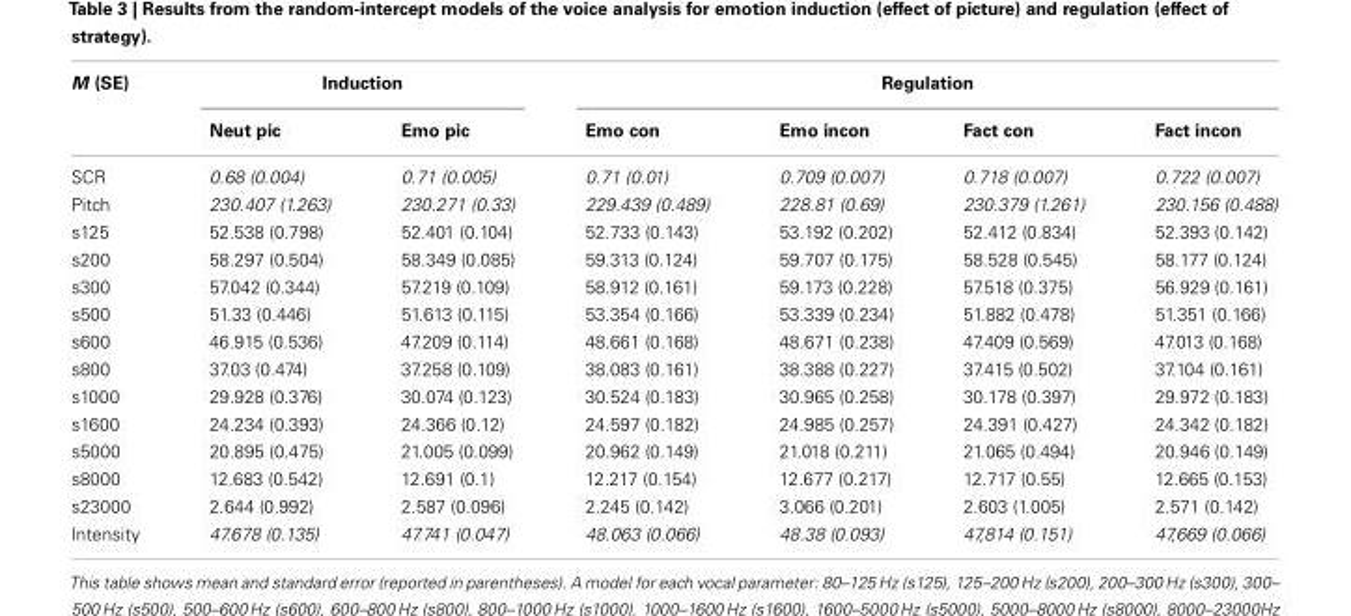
<table><thead><tr><td rowspan="2">M (SE)</td><td colspan="2">Induction</td><td colspan="4">Regulation</td></tr><tr><td>Neut pic</td><td>Emo pic</td><td>Emo con</td><td>Emo incon</td><td>Fact con</td><td>Fact incon</td></tr></thead><tbody><tr><td>SCR</td><td>0.68 (0.004)</td><td>0.71 (0.005)</td><td>0.71 (0.01)</td><td>0.709 (0.007)</td><td>0.718 (0.007)</td><td>0.722 (0.007)</td></tr><tr><td>Pitch</td><td>230.407 (1.263)</td><td>230.271 (0.33)</td><td>229.439 (0.489)</td><td>228.81 (0.69)</td><td>230.379 (1.261)</td><td>230.156 (0.488)</td></tr><tr><td>s125</td><td>52.538 (0.798)</td><td>52.401 (0.104)</td><td>52.733 (0.143)</td><td>53.192 (0.202)</td><td>52.412 (0.834)</td><td>52.393 (0.142)</td></tr><tr><td>s200</td><td>58.297 (0.504)</td><td>58.349 (0.085)</td><td>59.313 (0.124)</td><td>59.707 (0.175)</td><td>58.528 (0.545)</td><td>58.177 (0.124)</td></tr><tr><td>s300</td><td>57.042 (0.344)</td><td>57.219 (0.109)</td><td>58.912 (0.161)</td><td>59.173 (0.228)</td><td>57.518 (0.375)</td><td>56.929 (0.161)</td></tr><tr><td>s500</td><td>51.33 (0.446)</td><td>51.613 (0.115)</td><td>53.354 (0.166)</td><td>53.339 (0.234)</td><td>51.882 (0.478)</td><td>51.351 (0.166)</td></tr><tr><td>s600</td><td>46.915 (0.536)</td><td>47.209 (0.114)</td><td>48.661 (0.168)</td><td>48.671 (0.238)</td><td>47.409 (0.569)</td><td>47.013 (0.168)</td></tr><tr><td>s800</td><td>37.03 (0.474)</td><td>37.258 (0.109)</td><td>38.083 (0.161)</td><td>38.388 (0.227)</td><td>37.415 (0.502)</td><td>37.104 (0.161)</td></tr><tr><td>s1000</td><td>29.928 (0.376)</td><td>30.074 (0.123)</td><td>30.524 (0.183)</td><td>30.965 (0.258)</td><td>30.178 (0.397)</td><td>29.972 (0.183)</td></tr><tr><td>s1600</td><td>24.234 (0.393)</td><td>24.366 (0.12)</td><td>24.597 (0.182)</td><td>24.985 (0.257)</td><td>24.391 (0.427)</td><td>24.342 (0.182)</td></tr><tr><td>s5000</td><td>20.895 (0.475)</td><td>21.005 (0.099)</td><td>20.962 (0.149)</td><td>21.018 (0.211)</td><td>21.065 (0.494)</td><td>20.946 (0.149)</td></tr><tr><td>s8000</td><td>12.683 (0.542)</td><td>12.691 (0.1)</td><td>12.217 (0.154)</td><td>12.677 (0.217)</td><td>12.717 (0.55)</td><td>12.665 (0.153)</td></tr><tr><td>s23000</td><td>2.644 (0.992)</td><td>2.587 (0.096)</td><td>2.245 (0.142)</td><td>3.066 (0.201)</td><td>2.603 (1.005)</td><td>2.571 (0.142)</td></tr><tr><td>Intensity</td><td>47.678 (0.135)</td><td>47.741 (0.047)</td><td>48.063 (0.066)</td><td>48.38 (0.093)</td><td>47,814 (0.151)</td><td>47,669 (0.066)</td></tr></tbody></table>